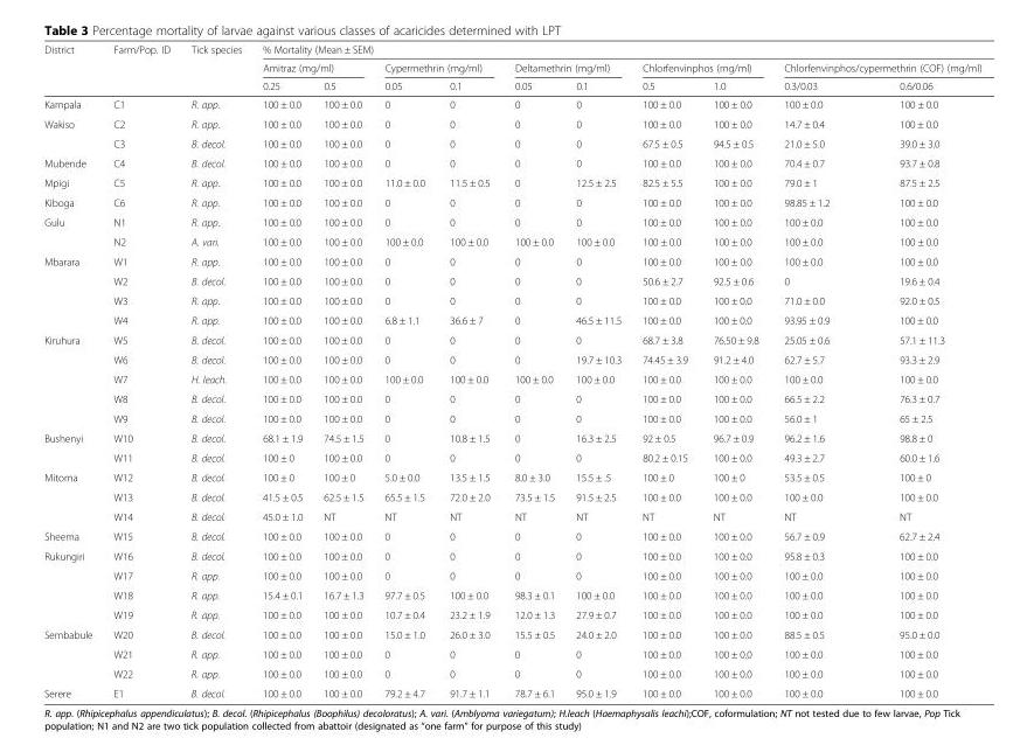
<table><thead><tr><td rowspan="3">District</td><td rowspan="3">Farm/Pop. ID</td><td rowspan="3">Tick species</td><td colspan="10">% Mortality (Mean ± SEM)</td></tr><tr><td colspan="2">Amitraz (mg/ml)</td><td colspan="2">Cypermethrin (mg/ml)</td><td colspan="2">Deltamethrin (mg/ml)</td><td colspan="2">Chlorfenvinphos (mg/ml)</td><td colspan="2">Chlorfenvinphos/cypermethrin (COF) (mg/ml)</td></tr><tr><td>0.25</td><td>0.5</td><td>0.05</td><td>0.1</td><td>0.05</td><td>0.1</td><td>0.5</td><td>1.0</td><td>0.3/0.03</td><td>0.6/0.06</td></tr></thead><tbody><tr><td>Kampala</td><td>C1</td><td>R. app.</td><td>100 ± 0.0</td><td>100 ± 0.0</td><td>0</td><td>0</td><td>0</td><td>0</td><td>100 ± 0.0</td><td>100 ± 0.0</td><td>100 ± 0.0</td><td>100 ± 0.0</td></tr><tr><td rowspan="2">Wakiso</td><td>C2</td><td>R. app.</td><td>100 ± 0.0</td><td>100 ± 0.0</td><td>0</td><td>0</td><td>0</td><td>0</td><td>100 ± 0.0</td><td>100 ± 0.0</td><td>14.7 ± 0.4</td><td>100 ± 0.0</td></tr><tr><td>C3</td><td>B. decol.</td><td>100 ± 0.0</td><td>100 ± 0.0</td><td>0</td><td>0</td><td>0</td><td>0</td><td>67.5 ± 0.5</td><td>94.5 ± 0.5</td><td>21.0 ± 5.0</td><td>39.0 ± 3.0</td></tr><tr><td>Mubende</td><td>C4</td><td>B. decol.</td><td>100 ± 0.0</td><td>100 ± 0.0</td><td>0</td><td>0</td><td>0</td><td>0</td><td>100 ± 0.0</td><td>100 ± 0.0</td><td>70.4 ± 0.7</td><td>93.7 ± 0.8</td></tr><tr><td>Mpigi</td><td>C5</td><td>R. app.</td><td>100 ± 0.0</td><td>100 ± 0.0</td><td>11.0 ± 0.0</td><td>11.5 ± 0.5</td><td>0</td><td>12.5 ± 2.5</td><td>82.5 ± 5.5</td><td>100 ± 0.0</td><td>79.0 ± 1</td><td>87.5 ± 2.5</td></tr><tr><td>Kiboga</td><td>C6</td><td>R. app.</td><td>100 ± 0.0</td><td>100 ± 0.0</td><td>0</td><td>0</td><td>0</td><td>0</td><td>100 ± 0.0</td><td>100 ± 0.0</td><td>98.85 ± 1.2</td><td>100 ± 0.0</td></tr><tr><td rowspan="2">Gulu</td><td>N1</td><td>R. app.</td><td>100 ± 0.0</td><td>100 ± 0.0</td><td>0</td><td>0</td><td>0</td><td>0</td><td>100 ± 0.0</td><td>100 ± 0.0</td><td>100 ± 0.0</td><td>100 ± 0.0</td></tr><tr><td>N2</td><td>A. vari.</td><td>100 ± 0.0</td><td>100 ± 0.0</td><td>100 ± 0.0</td><td>100 ± 0.0</td><td>100 ± 0.0</td><td>100 ± 0.0</td><td>100 ± 0.0</td><td>100 ± 0.0</td><td>100 ± 0.0</td><td>100 ± 0.0</td></tr><tr><td rowspan="4">Mbarara</td><td>W1</td><td>R. app.</td><td>100 ± 0.0</td><td>100 ± 0.0</td><td>0</td><td>0</td><td>0</td><td>0</td><td>100 ± 0.0</td><td>100 ± 0.0</td><td>100 ± 0.0</td><td>100 ± 0.0</td></tr><tr><td>W2</td><td>B. decol.</td><td>100 ± 0.0</td><td>100 ± 0.0</td><td>0</td><td>0</td><td>0</td><td>0</td><td>50.6 ± 2.7</td><td>92.5 ± 0.6</td><td>0</td><td>19.6 ± 0.4</td></tr><tr><td>W3</td><td>R. app.</td><td>100 ± 0.0</td><td>100 ± 0.0</td><td>0</td><td>0</td><td>0</td><td>0</td><td>100 ± 0.0</td><td>100 ± 0.0</td><td>71.0 ± 0.0</td><td>92.0 ± 0.5</td></tr><tr><td>W4</td><td>R. app.</td><td>100 ± 0.0</td><td>100 ± 0.0</td><td>6.8 ± 1.1</td><td>36.6 ± 7</td><td>0</td><td>46.5 ± 11.5</td><td>100 ± 0.0</td><td>100 ± 0.0</td><td>93.95 ± 0.9</td><td>100 ± 0.0</td></tr><tr><td rowspan="5">Kiruhura</td><td>W5</td><td>B. decol.</td><td>100 ± 0.0</td><td>100 ± 0.0</td><td>0</td><td>0</td><td>0</td><td>0</td><td>68.7 ± 3.8</td><td>76.50 ± 9.8</td><td>25.05 ± 0.6</td><td>57.1 ± 11.3</td></tr><tr><td>W6</td><td>B. decol.</td><td>100 ± 0.0</td><td>100 ± 0.0</td><td>0</td><td>0</td><td>0</td><td>19.7 ± 10.3</td><td>74.45 ± 3.9</td><td>91.2 ± 4.0</td><td>62.7 ± 5.7</td><td>93.3 ± 2.9</td></tr><tr><td>W7</td><td>H. leach.</td><td>100 ± 0.0</td><td>100 ± 0.0</td><td>100 ± 0.0</td><td>100 ± 0.0</td><td>100 ± 0.0</td><td>100 ± 0.0</td><td>100 ± 0.0</td><td>100 ± 0.0</td><td>100 ± 0.0</td><td>100 ± 0.0</td></tr><tr><td>W8</td><td>B. decol.</td><td>100 ± 0.0</td><td>100 ± 0.0</td><td>0</td><td>0</td><td>0</td><td>0</td><td>100 ± 0.0</td><td>100 ± 0.0</td><td>66.5 ± 2.2</td><td>76.3 ± 0.7</td></tr><tr><td>W9</td><td>B. decol.</td><td>100 ± 0.0</td><td>100 ± 0.0</td><td>0</td><td>0</td><td>0</td><td>0</td><td>100 ± 0.0</td><td>100 ± 0.0</td><td>56.0 ± 1</td><td>65 ± 2.5</td></tr><tr><td rowspan="2">Bushenyi</td><td>W10</td><td>B. decol.</td><td>68.1 ± 1.9</td><td>74.5 ± 1.5</td><td>0</td><td>10.8 ± 1.5</td><td>0</td><td>16.3 ± 2.5</td><td>92 ± 0.5</td><td>96.7 ± 0.9</td><td>96.2 ± 1.6</td><td>98.8 ± 0</td></tr><tr><td>W11</td><td>B. decol.</td><td>100 ± 0</td><td>100 ± 0.0</td><td>0</td><td>0</td><td>0</td><td>0</td><td>80.2 ± 0.15</td><td>100 ± 0.0</td><td>49.3 ± 2.7</td><td>60.0 ± 1.6</td></tr><tr><td rowspan="3">Mitoma</td><td>W12</td><td>B. decol.</td><td>100 ± 0</td><td>100 ± 0</td><td>5.0 ± 0.0</td><td>13.5 ± 1.5</td><td>8.0 ± 3.0</td><td>15.5 ± .5</td><td>100 ± 0</td><td>100 ± 0</td><td>53.5 ± 0.5</td><td>100 ± 0</td></tr><tr><td>W13</td><td>B. decol.</td><td>41.5 ± 0.5</td><td>62.5 ± 1.5</td><td>65.5 ± 1.5</td><td>72.0 ± 2.0</td><td>73.5 ± 1.5</td><td>91.5 ± 2.5</td><td>100 ± 0.0</td><td>100 ± 0.0</td><td>100 ± 0.0</td><td>100 ± 0.0</td></tr><tr><td>W14</td><td>B. decol.</td><td>45.0 ± 1.0</td><td>NT</td><td>NT</td><td>NT</td><td>NT</td><td>NT</td><td>NT</td><td>NT</td><td>NT</td><td>NT</td></tr><tr><td>Sheema</td><td>W15</td><td>B. decol.</td><td>100 ± 0.0</td><td>100 ± 0.0</td><td>0</td><td>0</td><td>0</td><td>0</td><td>100 ± 0.0</td><td>100 ± 0.0</td><td>56.7 ± 0.9</td><td>62.7 ± 2.4</td></tr><tr><td rowspan="4">Rukungiri</td><td>W16</td><td>B. decol.</td><td>100 ± 0.0</td><td>100 ± 0.0</td><td>0</td><td>0</td><td>0</td><td>0</td><td>100 ± 0.0</td><td>100 ± 0.0</td><td>95.8 ± 0.3</td><td>100 ± 0.0</td></tr><tr><td>W17</td><td>R. app.</td><td>100 ± 0.0</td><td>100 ± 0.0</td><td>0</td><td>0</td><td>0</td><td>0</td><td>100 ± 0.0</td><td>100 ± 0.0</td><td>100 ± 0.0</td><td>100 ± 0.0</td></tr><tr><td>W18</td><td>R. app.</td><td>15.4 ± 0.1</td><td>16.7 ± 1.3</td><td>97.7 ± 0.5</td><td>100 ± 0.0</td><td>98.3 ± 0.1</td><td>100 ± 0.0</td><td>100 ± 0.0</td><td>100 ± 0.0</td><td>100 ± 0.0</td><td>100 ± 0.0</td></tr><tr><td>W19</td><td>R. app.</td><td>100 ± 0.0</td><td>100 ± 0.0</td><td>10.7 ± 0.4</td><td>23.2 ± 1.9</td><td>12.0 ± 1.3</td><td>27.9 ± 0.7</td><td>100 ± 0.0</td><td>100 ± 0.0</td><td>100 ± 0.0</td><td>100 ± 0.0</td></tr><tr><td rowspan="3">Sembabule</td><td>W20</td><td>B. decol.</td><td>100 ± 0.0</td><td>100 ± 0.0</td><td>15.0 ± 1.0</td><td>26.0 ± 3.0</td><td>15.5 ± 0.5</td><td>24.0 ± 2.0</td><td>100 ± 0.0</td><td>100 ± 0.0</td><td>88.5 ± 0.5</td><td>95.0 ± 0.0</td></tr><tr><td>W21</td><td>R. app.</td><td>100 ± 0.0</td><td>100 ± 0.0</td><td>0</td><td>0</td><td>0</td><td>0</td><td>100 ± 0.0</td><td>100 ± 0.0</td><td>100 ± 0.0</td><td>100 ± 0.0</td></tr><tr><td>W22</td><td>R. app.</td><td>100 ± 0.0</td><td>100 ± 0.0</td><td>0</td><td>0</td><td>0</td><td>0</td><td>100 ± 0.0</td><td>100 ± 0.0</td><td>100 ± 0.0</td><td>100 ± 0.0</td></tr><tr><td>Serere</td><td>E1</td><td>B. decol.</td><td>100 ± 0.0</td><td>100 ± 0.0</td><td>79.2 ± 4.7</td><td>91.7 ± 1.1</td><td>78.7 ± 6.1</td><td>95.0 ± 1.9</td><td>100 ± 0.0</td><td>100 ± 0.0</td><td>100 ± 0.0</td><td>100 ± 0.0</td></tr></tbody></table>